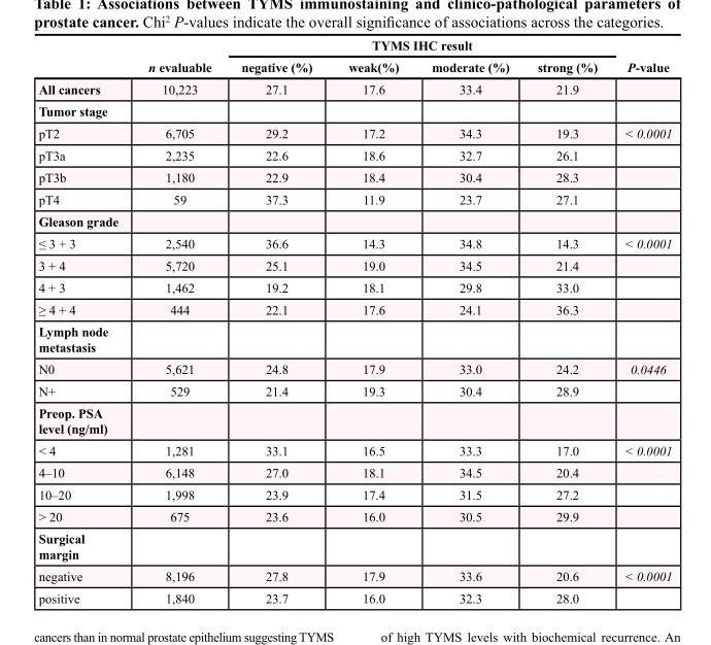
<table><thead><tr><td rowspan="2"></td><td rowspan="2">n evaluable</td><td colspan="4">TYMS IHC result</td><td rowspan="2">P-value</td></tr><tr><td>negative (%)</td><td>weak(%)</td><td>moderate (%)</td><td>strong (%)</td></tr></thead><tbody><tr><td>All cancers</td><td>10,223</td><td>27.1</td><td>17.6</td><td>33.4</td><td>21.9</td><td></td></tr><tr><td colspan="7">Tumor stage</td></tr><tr><td>pT2</td><td>6,705</td><td>29.2</td><td>17.2</td><td>34.3</td><td>19.3</td><td>&lt; 0.0001</td></tr><tr><td>pT3a</td><td>2,235</td><td>22.6</td><td>18.6</td><td>32.7</td><td>26.1</td><td></td></tr><tr><td>pT3b</td><td>1,180</td><td>22.9</td><td>18.4</td><td>30.4</td><td>28.3</td><td></td></tr><tr><td>pT4</td><td>59</td><td>37.3</td><td>11.9</td><td>23.7</td><td>27.1</td><td></td></tr><tr><td colspan="7">Gleason grade</td></tr><tr><td>≤ 3 + 3</td><td>2,540</td><td>36.6</td><td>14.3</td><td>34.8</td><td>14.3</td><td>&lt; 0.0001</td></tr><tr><td>3 + 4</td><td>5,720</td><td>25.1</td><td>19.0</td><td>34.5</td><td>21.4</td><td></td></tr><tr><td>4 + 3</td><td>1,462</td><td>19.2</td><td>18.1</td><td>29.8</td><td>33.0</td><td></td></tr><tr><td>≥ 4 + 4</td><td>444</td><td>22.1</td><td>17.6</td><td>24.1</td><td>36.3</td><td></td></tr><tr><td colspan="7">Lymph node metastasis</td></tr><tr><td>N0</td><td>5,621</td><td>24.8</td><td>17.9</td><td>33.0</td><td>24.2</td><td>0.0446</td></tr><tr><td>N+</td><td>529</td><td>21.4</td><td>19.3</td><td>30.4</td><td>28.9</td><td></td></tr><tr><td colspan="7">Preop. PSA level (ng/ml)</td></tr><tr><td>&lt; 4</td><td>1,281</td><td>33.1</td><td>16.5</td><td>33.3</td><td>17.0</td><td>&lt; 0.0001</td></tr><tr><td>4–10</td><td>6,148</td><td>27.0</td><td>18.1</td><td>34.5</td><td>20.4</td><td></td></tr><tr><td>10–20</td><td>1,998</td><td>23.9</td><td>17.4</td><td>31.5</td><td>27.2</td><td></td></tr><tr><td>&gt; 20</td><td>675</td><td>23.6</td><td>16.0</td><td>30.5</td><td>29.9</td><td></td></tr><tr><td colspan="7">Surgical margin</td></tr><tr><td>negative</td><td>8,196</td><td>27.8</td><td>17.9</td><td>33.6</td><td>20.6</td><td>&lt; 0.0001</td></tr><tr><td>positive</td><td>1,840</td><td>23.7</td><td>16.0</td><td>32.3</td><td>28.0</td><td></td></tr></tbody></table>